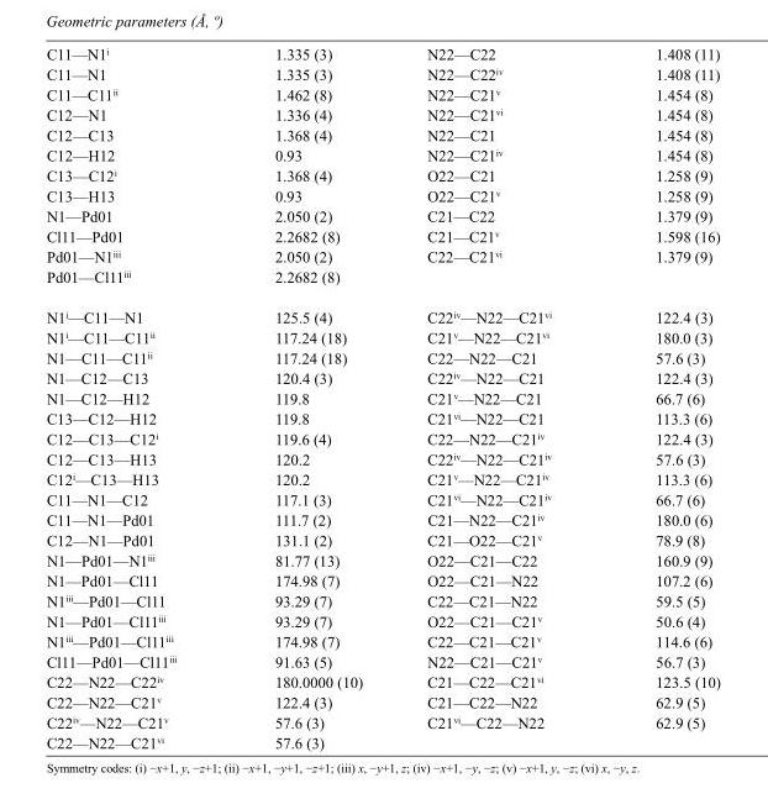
<table><tbody><tr><td>C11—N1<sup>i</sup></td><td>1.335 (3)</td><td>N22—C22</td><td>1.408 (11)</td></tr><tr><td>C11—N1</td><td>1.335 (3)</td><td>N22—C22<sup>iv</sup></td><td>1.408 (11)</td></tr><tr><td>C11—C11<sup>ii</sup></td><td>1.462 (8)</td><td>N22—C21<sup>v</sup></td><td>1.454 (8)</td></tr><tr><td>C12—N1</td><td>1.336 (4)</td><td>N22—C21<sup>vi</sup></td><td>1.454 (8)</td></tr><tr><td>C12—C13</td><td>1.368 (4)</td><td>N22—C21</td><td>1.454 (8)</td></tr><tr><td>C12—H12</td><td>0.93</td><td>N22—C21<sup>iv</sup></td><td>1.454 (8)</td></tr><tr><td>C13—C12<sup>i</sup></td><td>1.368 (4)</td><td>O22—C21</td><td>1.258 (9)</td></tr><tr><td>C13—H13</td><td>0.93</td><td>O22—C21<sup>v</sup></td><td>1.258 (9)</td></tr><tr><td>N1—Pd01</td><td>2.050 (2)</td><td>C21—C22</td><td>1.379 (9)</td></tr><tr><td>Cl11—Pd01</td><td>2.2682 (8)</td><td>C21—C21<sup>v</sup></td><td>1.598 (16)</td></tr><tr><td>Pd01—N1<sup>iii</sup></td><td>2.050 (2)</td><td>C22—C21<sup>vi</sup></td><td>1.379 (9)</td></tr><tr><td>Pd01—Cl11<sup>iii</sup></td><td>2.2682 (8)</td><td></td><td></td></tr><tr><td>N1<sup>i</sup>—C11—N1</td><td>125.5 (4)</td><td>C22<sup>iv</sup>—N22—C21<sup>vi</sup></td><td>122.4 (3)</td></tr><tr><td>N1<sup>i</sup>—C11—C11<sup>ii</sup></td><td>117.24 (18)</td><td>C21<sup>v</sup>—N22—C21<sup>vi</sup></td><td>180.0 (3)</td></tr><tr><td>N1—C11—C11<sup>ii</sup></td><td>117.24 (18)</td><td>C22—N22—C21</td><td>57.6 (3)</td></tr><tr><td>N1—C12—C13</td><td>120.4 (3)</td><td>C22<sup>iv</sup>—N22—C21</td><td>122.4 (3)</td></tr><tr><td>N1—C12—H12</td><td>119.8</td><td>C21<sup>v</sup>—N22—C21</td><td>66.7 (6)</td></tr><tr><td>C13—C12—H12</td><td>119.8</td><td>C21<sup>vi</sup>—N22—C21</td><td>113.3 (6)</td></tr><tr><td>C12—C13—C12<sup>i</sup></td><td>119.6 (4)</td><td>C22—N22—C21<sup>iv</sup></td><td>122.4 (3)</td></tr><tr><td>C12—C13—H13</td><td>120.2</td><td>C22<sup>iv</sup>—N22—C21<sup>iv</sup></td><td>57.6 (3)</td></tr><tr><td>C12<sup>i</sup>—C13—H13</td><td>120.2</td><td>C21<sup>v</sup>—N22—C21<sup>iv</sup></td><td>113.3 (6)</td></tr><tr><td>C11—N1—C12</td><td>117.1 (3)</td><td>C21<sup>vi</sup>—N22—C21<sup>iv</sup></td><td>66.7 (6)</td></tr><tr><td>C11—N1—Pd01</td><td>111.7 (2)</td><td>C21—N22—C21<sup>iv</sup></td><td>180.0 (6)</td></tr><tr><td>C12—N1—Pd01</td><td>131.1 (2)</td><td>C21—O22—C21<sup>v</sup></td><td>78.9 (8)</td></tr><tr><td>N1—Pd01—N1<sup>iii</sup></td><td>81.77 (13)</td><td>O22—C21—C22</td><td>160.9 (9)</td></tr><tr><td>N1—Pd01—Cl11</td><td>174.98 (7)</td><td>O22—C21—N22</td><td>107.2 (6)</td></tr><tr><td>N1<sup>iii</sup>—Pd01—Cl11</td><td>93.29 (7)</td><td>C22—C21—N22</td><td>59.5 (5)</td></tr><tr><td>N1—Pd01—Cl11<sup>iii</sup></td><td>93.29 (7)</td><td>O22—C21—C21<sup>v</sup></td><td>50.6 (4)</td></tr><tr><td>N1<sup>iii</sup>—Pd01—Cl11<sup>iii</sup></td><td>174.98 (7)</td><td>C22—C21—C21<sup>v</sup></td><td>114.6 (6)</td></tr><tr><td>Cl11—Pd01—Cl11<sup>iii</sup></td><td>91.63 (5)</td><td>N22—C21—C21<sup>v</sup></td><td>56.7 (3)</td></tr><tr><td>C22—N22—C22<sup>iv</sup></td><td>180.0000 (10)</td><td>C21—C22—C21<sup>vi</sup></td><td>123.5 (10)</td></tr><tr><td>C22—N22—C21<sup>v</sup></td><td>122.4 (3)</td><td>C21—C22—N22</td><td>62.9 (5)</td></tr><tr><td>C22<sup>iv</sup>—N22—C21<sup>v</sup></td><td>57.6 (3)</td><td>C21<sup>vi</sup>—C22—N22</td><td>62.9 (5)</td></tr><tr><td>C22—N22—C21<sup>vi</sup></td><td>57.6 (3)</td><td></td><td></td></tr></tbody></table>